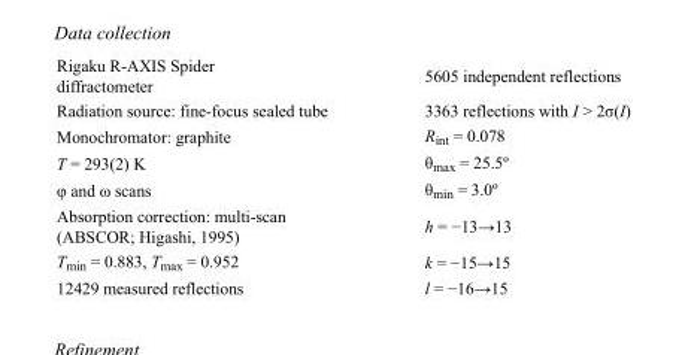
<table><tbody><tr><td>Rigaku R-AXIS Spider diffractometer</td><td>5605 independent reflections</td></tr><tr><td>Radiation source: fine-focus sealed tube</td><td>3363 reflections with I &gt; 2σ(I)</td></tr><tr><td>Monochromator: graphite</td><td>R<sub>int</sub> = 0.078</td></tr><tr><td>T = 293(2) K</td><td>θ<sub>max</sub> = 25.5º</td></tr><tr><td>φ and ω scans</td><td>θ<sub>min</sub> = 3.0º</td></tr><tr><td>Absorption correction: multi-scan (ABSCOR; Higashi, 1995)</td><td>h = −13→13</td></tr><tr><td>T<sub>min</sub> = 0.883, T<sub>max</sub> = 0.952</td><td>k = −15→15</td></tr><tr><td>12429 measured reflections</td><td>l = −16→15</td></tr></tbody></table>